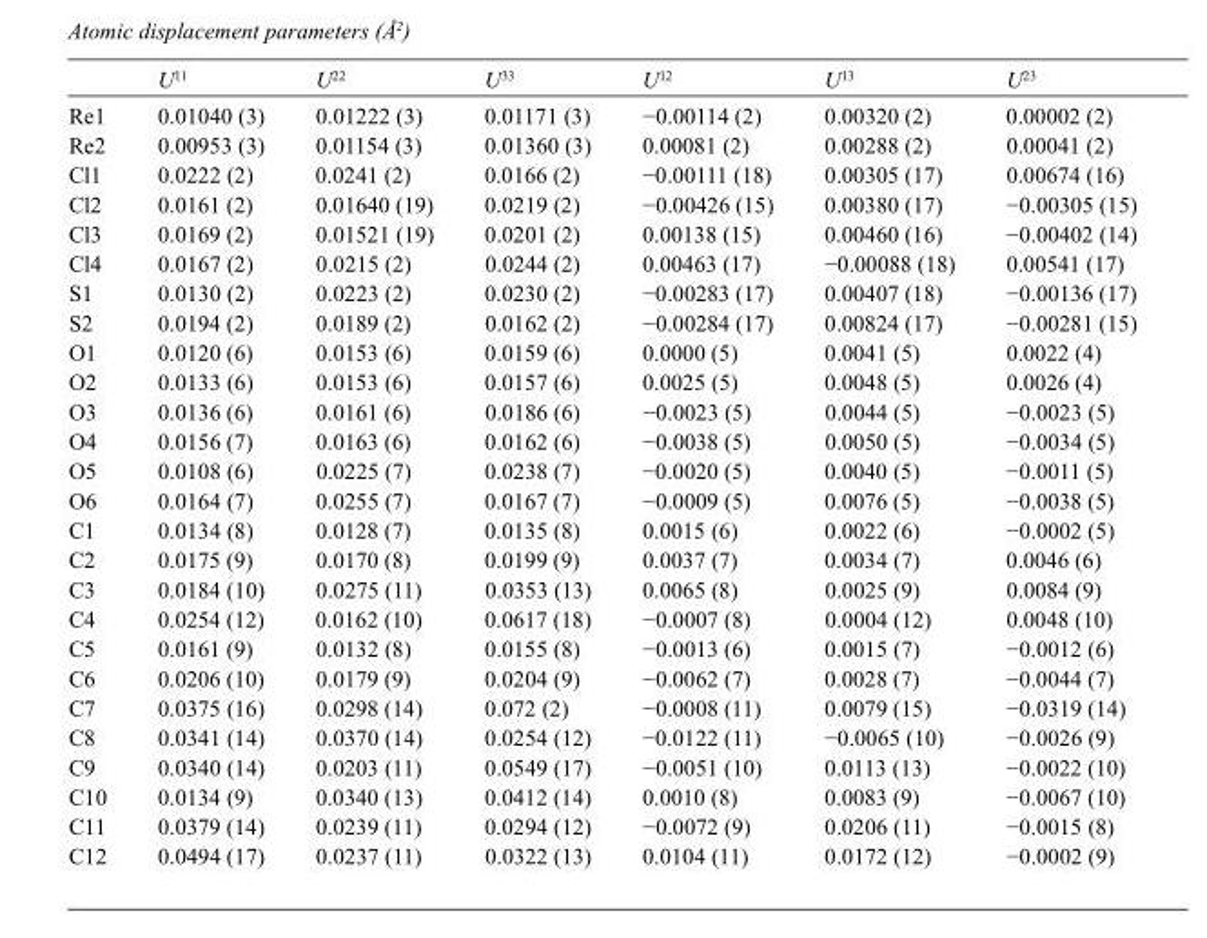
<table><thead><tr><td></td><td>U<sup>11</sup></td><td>U<sup>22</sup></td><td>U<sup>33</sup></td><td>U<sup>12</sup></td><td>U<sup>13</sup></td><td>U<sup>23</sup></td></tr></thead><tbody><tr><td>Re1</td><td>0.01040 (3)</td><td>0.01222 (3)</td><td>0.01171 (3)</td><td>−0.00114 (2)</td><td>0.00320 (2)</td><td>0.00002 (2)</td></tr><tr><td>Re2</td><td>0.00953 (3)</td><td>0.01154 (3)</td><td>0.01360 (3)</td><td>0.00081 (2)</td><td>0.00288 (2)</td><td>0.00041 (2)</td></tr><tr><td>Cl1</td><td>0.0222 (2)</td><td>0.0241 (2)</td><td>0.0166 (2)</td><td>−0.00111 (18)</td><td>0.00305 (17)</td><td>0.00674 (16)</td></tr><tr><td>Cl2</td><td>0.0161 (2)</td><td>0.01640 (19)</td><td>0.0219 (2)</td><td>−0.00426 (15)</td><td>0.00380 (17)</td><td>−0.00305 (15)</td></tr><tr><td>Cl3</td><td>0.0169 (2)</td><td>0.01521 (19)</td><td>0.0201 (2)</td><td>0.00138 (15)</td><td>0.00460 (16)</td><td>−0.00402 (14)</td></tr><tr><td>Cl4</td><td>0.0167 (2)</td><td>0.0215 (2)</td><td>0.0244 (2)</td><td>0.00463 (17)</td><td>−0.00088 (18)</td><td>0.00541 (17)</td></tr><tr><td>S1</td><td>0.0130 (2)</td><td>0.0223 (2)</td><td>0.0230 (2)</td><td>−0.00283 (17)</td><td>0.00407 (18)</td><td>−0.00136 (17)</td></tr><tr><td>S2</td><td>0.0194 (2)</td><td>0.0189 (2)</td><td>0.0162 (2)</td><td>−0.00284 (17)</td><td>0.00824 (17)</td><td>−0.00281 (15)</td></tr><tr><td>O1</td><td>0.0120 (6)</td><td>0.0153 (6)</td><td>0.0159 (6)</td><td>0.0000 (5)</td><td>0.0041 (5)</td><td>0.0022 (4)</td></tr><tr><td>O2</td><td>0.0133 (6)</td><td>0.0153 (6)</td><td>0.0157 (6)</td><td>0.0025 (5)</td><td>0.0048 (5)</td><td>0.0026 (4)</td></tr><tr><td>O3</td><td>0.0136 (6)</td><td>0.0161 (6)</td><td>0.0186 (6)</td><td>−0.0023 (5)</td><td>0.0044 (5)</td><td>−0.0023 (5)</td></tr><tr><td>O4</td><td>0.0156 (7)</td><td>0.0163 (6)</td><td>0.0162 (6)</td><td>−0.0038 (5)</td><td>0.0050 (5)</td><td>−0.0034 (5)</td></tr><tr><td>O5</td><td>0.0108 (6)</td><td>0.0225 (7)</td><td>0.0238 (7)</td><td>−0.0020 (5)</td><td>0.0040 (5)</td><td>−0.0011 (5)</td></tr><tr><td>O6</td><td>0.0164 (7)</td><td>0.0255 (7)</td><td>0.0167 (7)</td><td>−0.0009 (5)</td><td>0.0076 (5)</td><td>−0.0038 (5)</td></tr><tr><td>C1</td><td>0.0134 (8)</td><td>0.0128 (7)</td><td>0.0135 (8)</td><td>0.0015 (6)</td><td>0.0022 (6)</td><td>−0.0002 (5)</td></tr><tr><td>C2</td><td>0.0175 (9)</td><td>0.0170 (8)</td><td>0.0199 (9)</td><td>0.0037 (7)</td><td>0.0034 (7)</td><td>0.0046 (6)</td></tr><tr><td>C3</td><td>0.0184 (10)</td><td>0.0275 (11)</td><td>0.0353 (13)</td><td>0.0065 (8)</td><td>0.0025 (9)</td><td>0.0084 (9)</td></tr><tr><td>C4</td><td>0.0254 (12)</td><td>0.0162 (10)</td><td>0.0617 (18)</td><td>−0.0007 (8)</td><td>0.0004 (12)</td><td>0.0048 (10)</td></tr><tr><td>C5</td><td>0.0161 (9)</td><td>0.0132 (8)</td><td>0.0155 (8)</td><td>−0.0013 (6)</td><td>0.0015 (7)</td><td>−0.0012 (6)</td></tr><tr><td>C6</td><td>0.0206 (10)</td><td>0.0179 (9)</td><td>0.0204 (9)</td><td>−0.0062 (7)</td><td>0.0028 (7)</td><td>−0.0044 (7)</td></tr><tr><td>C7</td><td>0.0375 (16)</td><td>0.0298 (14)</td><td>0.072 (2)</td><td>−0.0008 (11)</td><td>0.0079 (15)</td><td>−0.0319 (14)</td></tr><tr><td>C8</td><td>0.0341 (14)</td><td>0.0370 (14)</td><td>0.0254 (12)</td><td>−0.0122 (11)</td><td>−0.0065 (10)</td><td>−0.0026 (9)</td></tr><tr><td>C9</td><td>0.0340 (14)</td><td>0.0203 (11)</td><td>0.0549 (17)</td><td>−0.0051 (10)</td><td>0.0113 (13)</td><td>−0.0022 (10)</td></tr><tr><td>C10</td><td>0.0134 (9)</td><td>0.0340 (13)</td><td>0.0412 (14)</td><td>0.0010 (8)</td><td>0.0083 (9)</td><td>−0.0067 (10)</td></tr><tr><td>C11</td><td>0.0379 (14)</td><td>0.0239 (11)</td><td>0.0294 (12)</td><td>−0.0072 (9)</td><td>0.0206 (11)</td><td>−0.0015 (8)</td></tr><tr><td>C12</td><td>0.0494 (17)</td><td>0.0237 (11)</td><td>0.0322 (13)</td><td>0.0104 (11)</td><td>0.0172 (12)</td><td>−0.0002 (9)</td></tr></tbody></table>